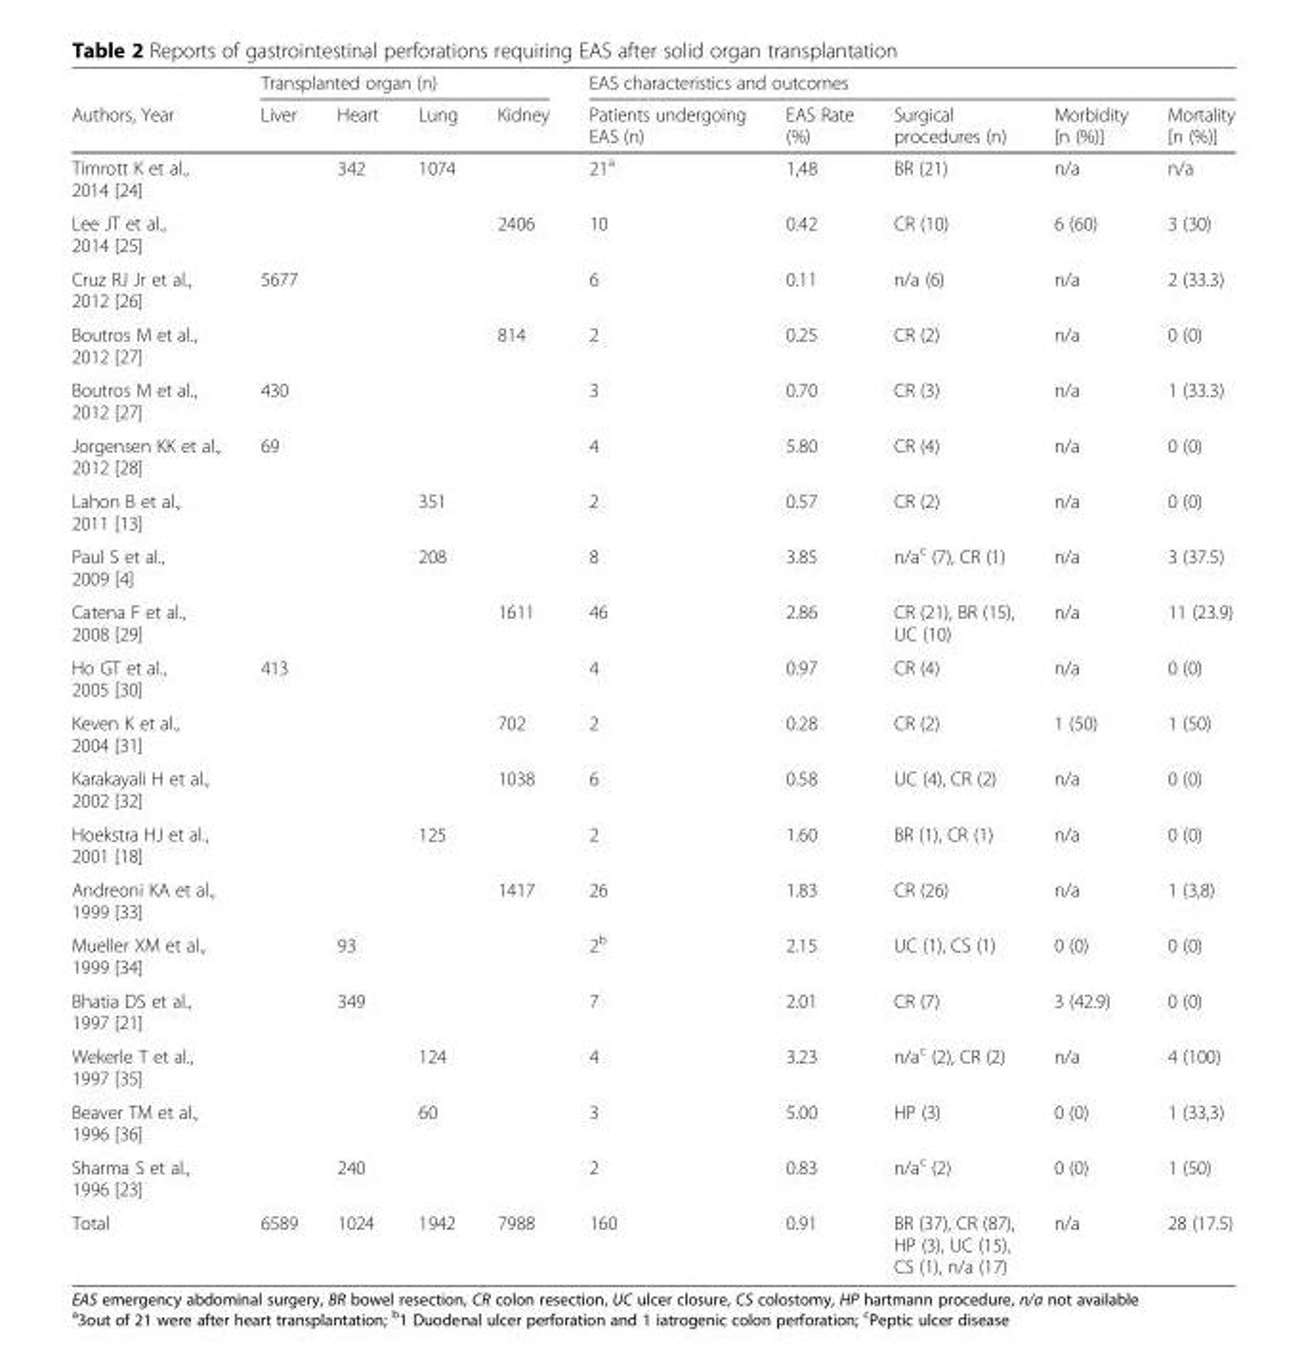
<table><thead><tr><td rowspan="2">Authors, Year</td><td colspan="4">Transplanted organ (n)</td><td colspan="5">EAS characteristics and outcomes</td></tr><tr><td>Liver</td><td>Heart</td><td>Lung</td><td>Kidney</td><td>Patients undergoing EAS (n)</td><td>EAS Rate (%)</td><td>Surgical procedures (n)</td><td>Morbidity [n (%)]</td><td>Mortality [n (%)]</td></tr></thead><tbody><tr><td>Timrott K et al., 2014 [24]</td><td></td><td>342</td><td>1074</td><td></td><td>21<sup>a</sup></td><td>1,48</td><td>BR (21)</td><td>n/a</td><td>n/a</td></tr><tr><td>Lee JT et al., 2014 [25]</td><td></td><td></td><td></td><td>2406</td><td>10</td><td>0.42</td><td>CR (10)</td><td>6 (60)</td><td>3 (30)</td></tr><tr><td>Cruz RJ Jr et al., 2012 [26]</td><td>5677</td><td></td><td></td><td></td><td>6</td><td>0.11</td><td>n/a (6)</td><td>n/a</td><td>2 (33.3)</td></tr><tr><td>Boutros M et al., 2012 [27]</td><td></td><td></td><td></td><td>814</td><td>2</td><td>0.25</td><td>CR (2)</td><td>n/a</td><td>0 (0)</td></tr><tr><td>Boutros M et al., 2012 [27]</td><td>430</td><td></td><td></td><td></td><td>3</td><td>0.70</td><td>CR (3)</td><td>n/a</td><td>1 (33.3)</td></tr><tr><td>Jorgensen KK et al., 2012 [28]</td><td>69</td><td></td><td></td><td></td><td>4</td><td>5.80</td><td>CR (4)</td><td>n/a</td><td>0 (0)</td></tr><tr><td>Lahon B et al., 2011 [13]</td><td></td><td></td><td>351</td><td></td><td>2</td><td>0.57</td><td>CR (2)</td><td>n/a</td><td>0 (0)</td></tr><tr><td>Paul S et al., 2009 [4]</td><td></td><td></td><td>208</td><td></td><td>8</td><td>3.85</td><td>n/a<sup>c</sup> (7), CR (1)</td><td>n/a</td><td>3 (37.5)</td></tr><tr><td>Catena F et al., 2008 [29]</td><td></td><td></td><td></td><td>1611</td><td>46</td><td>2.86</td><td>CR (21), BR (15), UC (10)</td><td>n/a</td><td>11 (23.9)</td></tr><tr><td>Ho GT et al., 2005 [30]</td><td>413</td><td></td><td></td><td></td><td>4</td><td>0.97</td><td>CR (4)</td><td>n/a</td><td>0 (0)</td></tr><tr><td>Keven K et al., 2004 [31]</td><td></td><td></td><td></td><td>702</td><td>2</td><td>0.28</td><td>CR (2)</td><td>1 (50)</td><td>1 (50)</td></tr><tr><td>Karakayali H et al., 2002 [32]</td><td></td><td></td><td></td><td>1038</td><td>6</td><td>0.58</td><td>UC (4), CR (2)</td><td>n/a</td><td>0 (0)</td></tr><tr><td>Hoekstra HJ et al., 2001 [18]</td><td></td><td></td><td>125</td><td></td><td>2</td><td>1.60</td><td>BR (1), CR (1)</td><td>n/a</td><td>0 (0)</td></tr><tr><td>Andreoni KA et al., 1999 [33]</td><td></td><td></td><td></td><td>1417</td><td>26</td><td>1.83</td><td>CR (26)</td><td>n/a</td><td>1 (3,8)</td></tr><tr><td>Mueller XM et al., 1999 [34]</td><td></td><td>93</td><td></td><td></td><td>2<sup>b</sup></td><td>2.15</td><td>UC (1), CS (1)</td><td>0 (0)</td><td>0 (0)</td></tr><tr><td>Bhatia DS et al., 1997 [21]</td><td></td><td>349</td><td></td><td></td><td>7</td><td>2.01</td><td>CR (7)</td><td>3 (42.9)</td><td>0 (0)</td></tr><tr><td>Wekerle T et al., 1997 [35]</td><td></td><td></td><td>124</td><td></td><td>4</td><td>3.23</td><td>n/a<sup>c</sup> (2), CR (2)</td><td>n/a</td><td>4 (100)</td></tr><tr><td>Beaver TM et al., 1996 [36]</td><td></td><td></td><td>60</td><td></td><td>3</td><td>5.00</td><td>HP (3)</td><td>0 (0)</td><td>1 (33,3)</td></tr><tr><td>Sharma S et al., 1996 [23]</td><td></td><td>240</td><td></td><td></td><td>2</td><td>0.83</td><td>n/a<sup>c</sup> (2)</td><td>0 (0)</td><td>1 (50)</td></tr><tr><td>Total</td><td>6589</td><td>1024</td><td>1942</td><td>7988</td><td>160</td><td>0.91</td><td>BR (37), CR (87), HP (3), UC (15), CS (1), n/a (17)</td><td>n/a</td><td>28 (17.5)</td></tr></tbody></table>